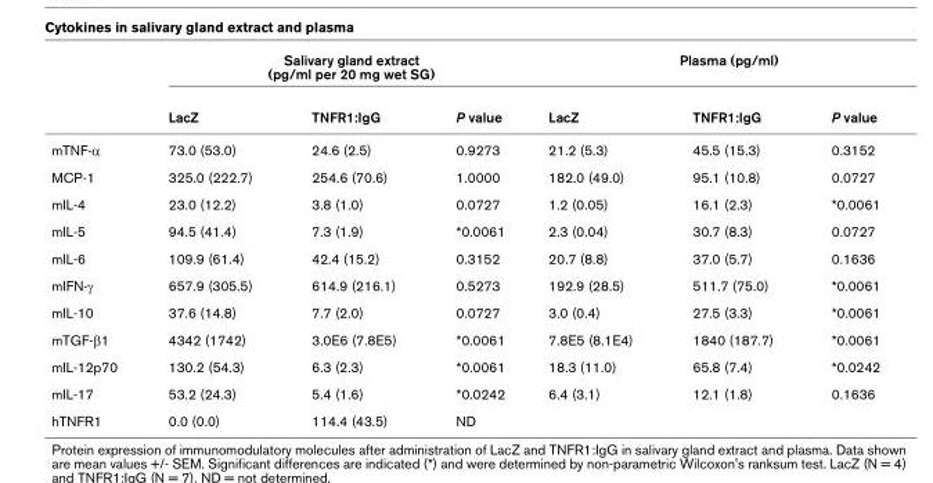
<table><thead><tr><td rowspan="2"></td><td colspan="3">Salivary gland extract (pg/ml per 20 mg wet SG)</td><td colspan="3">Plasma (pg/ml)</td></tr><tr><td>LacZ</td><td>TNFR1:IgG</td><td>P value</td><td>LacZ</td><td>TNFR1:IgG</td><td>P value</td></tr></thead><tbody><tr><td>mTNF-α</td><td>73.0 (53.0)</td><td>24.6 (2.5)</td><td>0.9273</td><td>21.2 (5.3)</td><td>45.5 (15.3)</td><td>0.3152</td></tr><tr><td>MCP-1</td><td>325.0 (222.7)</td><td>254.6 (70.6)</td><td>1.0000</td><td>182.0 (49.0)</td><td>95.1 (10.8)</td><td>0.0727</td></tr><tr><td>mIL-4</td><td>23.0 (12.2)</td><td>3.8 (1.0)</td><td>0.0727</td><td>1.2 (0.05)</td><td>16.1 (2.3)</td><td>*0.0061</td></tr><tr><td>mIL-5</td><td>94.5 (41.4)</td><td>7.3 (1.9)</td><td>*0.0061</td><td>2.3 (0.04)</td><td>30.7 (8.3)</td><td>0.0727</td></tr><tr><td>mIL-6</td><td>109.9 (61.4)</td><td>42.4 (15.2)</td><td>0.3152</td><td>20.7 (8.8)</td><td>37.0 (5.7)</td><td>0.1636</td></tr><tr><td>mIFN-γ</td><td>657.9 (305.5)</td><td>614.9 (216.1)</td><td>0.5273</td><td>192.9 (28.5)</td><td>511.7 (75.0)</td><td>*0.0061</td></tr><tr><td>mIL-10</td><td>37.6 (14.8)</td><td>7.7 (2.0)</td><td>0.0727</td><td>3.0 (0.4)</td><td>27.5 (3.3)</td><td>*0.0061</td></tr><tr><td>mTGF-β1</td><td>4342 (1742)</td><td>3.0E6 (7.8E5)</td><td>*0.0061</td><td>7.8E5 (8.1E4)</td><td>1840 (187.7)</td><td>*0.0061</td></tr><tr><td>mIL-12p70</td><td>130.2 (54.3)</td><td>6.3 (2.3)</td><td>*0.0061</td><td>18.3 (11.0)</td><td>65.8 (7.4)</td><td>*0.0242</td></tr><tr><td>mIL-17</td><td>53.2 (24.3)</td><td>5.4 (1.6)</td><td>*0.0242</td><td>6.4 (3.1)</td><td>12.1 (1.8)</td><td>0.1636</td></tr><tr><td>hTNFR1</td><td>0.0 (0.0)</td><td>114.4 (43.5)</td><td>ND</td><td></td><td></td><td></td></tr></tbody></table>